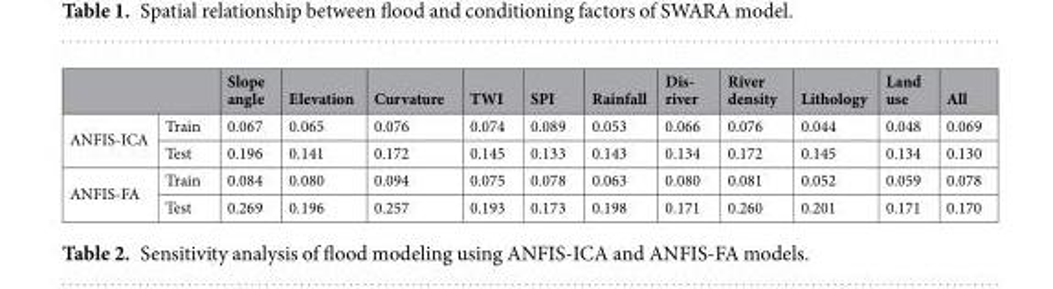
<table><thead><tr><td></td><td></td><td>Slope angle</td><td>Elevation</td><td>Curvature</td><td>TWI</td><td>SPI</td><td>Rainfall</td><td>Dis- river</td><td>River density</td><td>Lithology</td><td>Land use</td><td>All</td></tr></thead><tbody><tr><td rowspan="2">ANFIS-ICA</td><td>Train</td><td>0.067</td><td>0.065</td><td>0.076</td><td>0.074</td><td>0.089</td><td>0.053</td><td>0.066</td><td>0.076</td><td>0.044</td><td>0.048</td><td>0.069</td></tr><tr><td>Test</td><td>0.196</td><td>0.141</td><td>0.172</td><td>0.145</td><td>0.133</td><td>0.143</td><td>0.134</td><td>0.172</td><td>0.145</td><td>0.134</td><td>0.130</td></tr><tr><td rowspan="2">ANFIS-FA</td><td>Train</td><td>0.084</td><td>0.080</td><td>0.094</td><td>0.075</td><td>0.078</td><td>0.063</td><td>0.080</td><td>0.081</td><td>0.052</td><td>0.059</td><td>0.078</td></tr><tr><td>Test</td><td>0.269</td><td>0.196</td><td>0.257</td><td>0.193</td><td>0.173</td><td>0.198</td><td>0.171</td><td>0.260</td><td>0.201</td><td>0.171</td><td>0.170</td></tr></tbody></table>